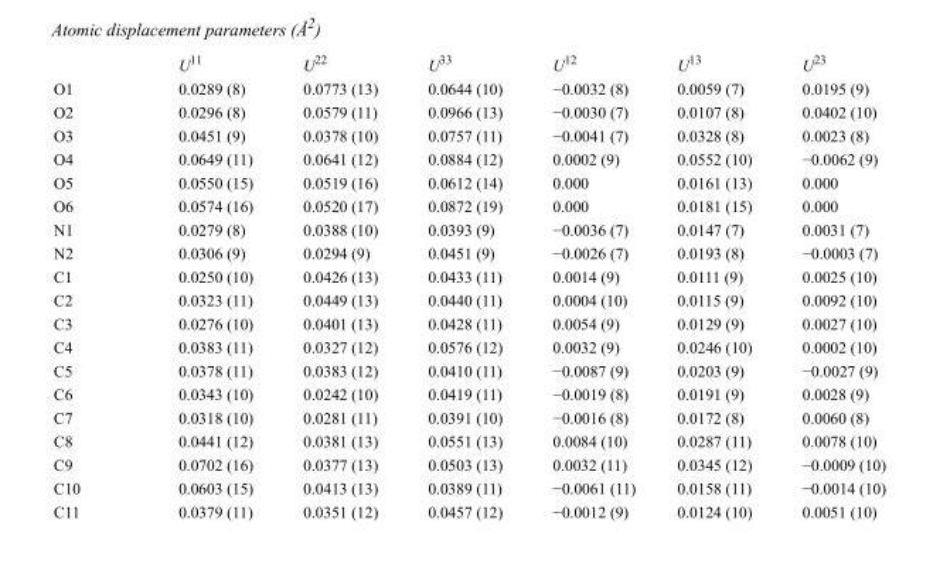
<table><thead><tr><td></td><td>U<sup>11</sup></td><td>U<sup>22</sup></td><td>U<sup>33</sup></td><td>U<sup>12</sup></td><td>U<sup>13</sup></td><td>U<sup>23</sup></td></tr></thead><tbody><tr><td>O1</td><td>0.0289 (8)</td><td>0.0773 (13)</td><td>0.0644 (10)</td><td>−0.0032 (8)</td><td>0.0059 (7)</td><td>0.0195 (9)</td></tr><tr><td>O2</td><td>0.0296 (8)</td><td>0.0579 (11)</td><td>0.0966 (13)</td><td>−0.0030 (7)</td><td>0.0107 (8)</td><td>0.0402 (10)</td></tr><tr><td>O3</td><td>0.0451 (9)</td><td>0.0378 (10)</td><td>0.0757 (11)</td><td>−0.0041 (7)</td><td>0.0328 (8)</td><td>0.0023 (8)</td></tr><tr><td>O4</td><td>0.0649 (11)</td><td>0.0641 (12)</td><td>0.0884 (12)</td><td>0.0002 (9)</td><td>0.0552 (10)</td><td>−0.0062 (9)</td></tr><tr><td>O5</td><td>0.0550 (15)</td><td>0.0519 (16)</td><td>0.0612 (14)</td><td>0.000</td><td>0.0161 (13)</td><td>0.000</td></tr><tr><td>O6</td><td>0.0574 (16)</td><td>0.0520 (17)</td><td>0.0872 (19)</td><td>0.000</td><td>0.0181 (15)</td><td>0.000</td></tr><tr><td>N1</td><td>0.0279 (8)</td><td>0.0388 (10)</td><td>0.0393 (9)</td><td>−0.0036 (7)</td><td>0.0147 (7)</td><td>0.0031 (7)</td></tr><tr><td>N2</td><td>0.0306 (9)</td><td>0.0294 (9)</td><td>0.0451 (9)</td><td>−0.0026 (7)</td><td>0.0193 (8)</td><td>−0.0003 (7)</td></tr><tr><td>C1</td><td>0.0250 (10)</td><td>0.0426 (13)</td><td>0.0433 (11)</td><td>0.0014 (9)</td><td>0.0111 (9)</td><td>0.0025 (10)</td></tr><tr><td>C2</td><td>0.0323 (11)</td><td>0.0449 (13)</td><td>0.0440 (11)</td><td>0.0004 (10)</td><td>0.0115 (9)</td><td>0.0092 (10)</td></tr><tr><td>C3</td><td>0.0276 (10)</td><td>0.0401 (13)</td><td>0.0428 (11)</td><td>0.0054 (9)</td><td>0.0129 (9)</td><td>0.0027 (10)</td></tr><tr><td>C4</td><td>0.0383 (11)</td><td>0.0327 (12)</td><td>0.0576 (12)</td><td>0.0032 (9)</td><td>0.0246 (10)</td><td>0.0002 (10)</td></tr><tr><td>C5</td><td>0.0378 (11)</td><td>0.0383 (12)</td><td>0.0410 (11)</td><td>−0.0087 (9)</td><td>0.0203 (9)</td><td>−0.0027 (9)</td></tr><tr><td>C6</td><td>0.0343 (10)</td><td>0.0242 (10)</td><td>0.0419 (11)</td><td>−0.0019 (8)</td><td>0.0191 (9)</td><td>0.0028 (9)</td></tr><tr><td>C7</td><td>0.0318 (10)</td><td>0.0281 (11)</td><td>0.0391 (10)</td><td>−0.0016 (8)</td><td>0.0172 (8)</td><td>0.0060 (8)</td></tr><tr><td>C8</td><td>0.0441 (12)</td><td>0.0381 (13)</td><td>0.0551 (13)</td><td>0.0084 (10)</td><td>0.0287 (11)</td><td>0.0078 (10)</td></tr><tr><td>C9</td><td>0.0702 (16)</td><td>0.0377 (13)</td><td>0.0503 (13)</td><td>0.0032 (11)</td><td>0.0345 (12)</td><td>−0.0009 (10)</td></tr><tr><td>C10</td><td>0.0603 (15)</td><td>0.0413 (13)</td><td>0.0389 (11)</td><td>−0.0061 (11)</td><td>0.0158 (11)</td><td>−0.0014 (10)</td></tr><tr><td>C11</td><td>0.0379 (11)</td><td>0.0351 (12)</td><td>0.0457 (12)</td><td>−0.0012 (9)</td><td>0.0124 (10)</td><td>0.0051 (10)</td></tr></tbody></table>